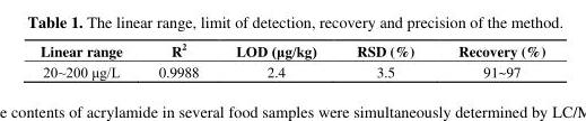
<table><thead><tr><td>Linear range</td><td>R<sup>2</sup></td><td>LOD (μg/kg)</td><td>RSD (%)</td><td>Recovery (%)</td></tr></thead><tbody><tr><td>20~200 μg/L</td><td>0.9988</td><td>2.4</td><td>3.5</td><td>91~97</td></tr></tbody></table>